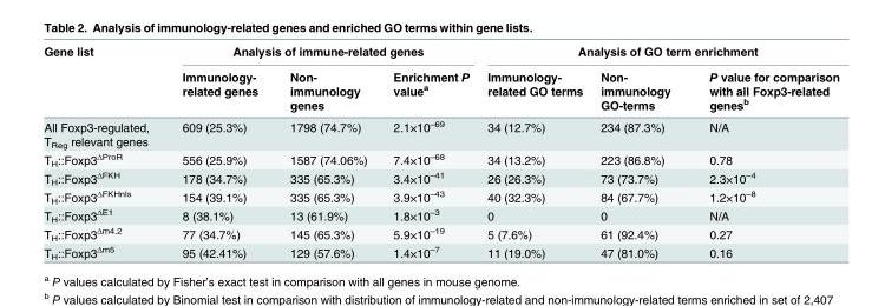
<table><thead><tr><td rowspan="2">Gene list</td><td colspan="3">Analysis of immune-related genes</td><td colspan="3">Analysis of GO term enrichment</td></tr><tr><td>Immunology- related genes</td><td>Non- immunology genes</td><td>Enrichment P value<sup>a</sup></td><td>Immunology- related GO terms</td><td>Non- immunology GO-terms</td><td>P value for comparison with all Foxp3-related genes<sup>b</sup></td></tr></thead><tbody><tr><td>All Foxp3-regulated, T<sub>Reg</sub> relevant genes</td><td>609 (25.3%)</td><td>1798 (74.7%)</td><td>2.1×10<sup>–69</sup></td><td>34 (12.7%)</td><td>234 (87.3%)</td><td>N/A</td></tr><tr><td>TH::Foxp3ΔProR</td><td>556 (25.9%)</td><td>1587 (74.06%)</td><td>7.4×10<sup>–68</sup></td><td>34 (13.2%)</td><td>223 (86.8%)</td><td>0.78</td></tr><tr><td>TH::Foxp3ΔFKH</td><td>178 (34.7%)</td><td>335 (65.3%)</td><td>3.4×10<sup>–41</sup></td><td>26 (26.3%)</td><td>73 (73.7%)</td><td>2.3×10<sup>–4</sup></td></tr><tr><td>TH::Foxp3ΔFKHnls</td><td>154 (39.1%)</td><td>335 (65.3%)</td><td>3.9×10<sup>–43</sup></td><td>40 (32.3%)</td><td>84 (67.7%)</td><td>1.2×10<sup>–8</sup></td></tr><tr><td>TH::Foxp3ΔE1</td><td>8 (38.1%)</td><td>13 (61.9%)</td><td>1.8×10<sup>–3</sup></td><td>0</td><td>0</td><td>N/A</td></tr><tr><td>TH::Foxp3Δm4.2</td><td>77 (34.7%)</td><td>145 (65.3%)</td><td>5.9×10<sup>–19</sup></td><td>5 (7.6%)</td><td>61 (92.4%)</td><td>0.27</td></tr><tr><td>TH::Foxp3Δm5</td><td>95 (42.41%)</td><td>129 (57.6%)</td><td>1.4×10<sup>–7</sup></td><td>11 (19.0%)</td><td>47 (81.0%)</td><td>0.16</td></tr></tbody></table>